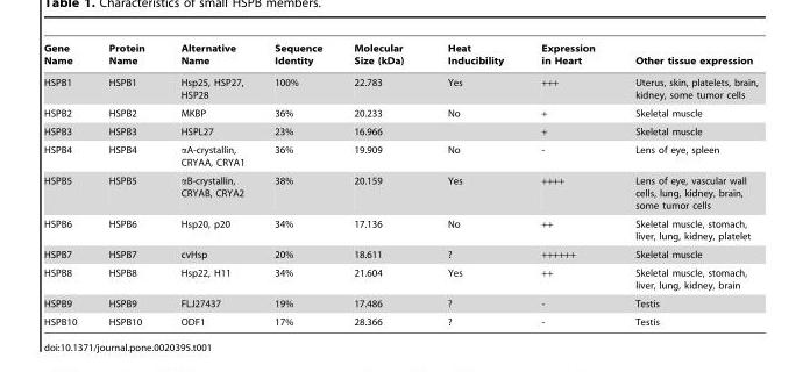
<table><thead><tr><td>Gene Name</td><td>Protein Name</td><td>Alternative Name</td><td>Sequence Identity</td><td>Molecular Size (kDa)</td><td>Heat Inducibility</td><td>Expression in Heart</td><td>Other tissue expression</td></tr></thead><tbody><tr><td>HSPB1</td><td>HSPB1</td><td>Hsp25, HSP27, HSP28</td><td>100%</td><td>22.783</td><td>Yes</td><td>+++</td><td>Uterus, skin, platelets, brain, kidney, some tumor cells</td></tr><tr><td>HSPB2</td><td>HSPB2</td><td>MKBP</td><td>36%</td><td>20.233</td><td>No</td><td>+</td><td>Skeletal muscle</td></tr><tr><td>HSPB3</td><td>HSPB3</td><td>HSPL27</td><td>23%</td><td>16.966</td><td></td><td>+</td><td>Skeletal muscle</td></tr><tr><td>HSPB4</td><td>HSPB4</td><td>αA-crystallin, CRYAA, CRYA1</td><td>36%</td><td>19.909</td><td>No</td><td>-</td><td>Lens of eye, spleen</td></tr><tr><td>HSPB5</td><td>HSPB5</td><td>αB-crystallin, CRYAB, CRYA2</td><td>38%</td><td>20.159</td><td>Yes</td><td>++++</td><td>Lens of eye, vascular wall cells, lung, kidney, brain, some tumor cells</td></tr><tr><td>HSPB6</td><td>HSPB6</td><td>Hsp20, p20</td><td>34%</td><td>17.136</td><td>No</td><td>++</td><td>Skeletal muscle, stomach, liver, lung, kidney, platelet</td></tr><tr><td>HSPB7</td><td>HSPB7</td><td>cvHsp</td><td>20%</td><td>18.611</td><td>?</td><td>++++++</td><td>Skeletal muscle</td></tr><tr><td>HSPB8</td><td>HSPB8</td><td>Hsp22, H11</td><td>34%</td><td>21.604</td><td>Yes</td><td>++</td><td>Skeletal muscle, stomach, liver, lung, kidney, brain</td></tr><tr><td>HSPB9</td><td>HSPB9</td><td>FLJ27437</td><td>19%</td><td>17.486</td><td>?</td><td>-</td><td>Testis</td></tr><tr><td>HSPB10</td><td>HSPB10</td><td>ODF1</td><td>17%</td><td>28.366</td><td>?</td><td>-</td><td>Testis</td></tr></tbody></table>